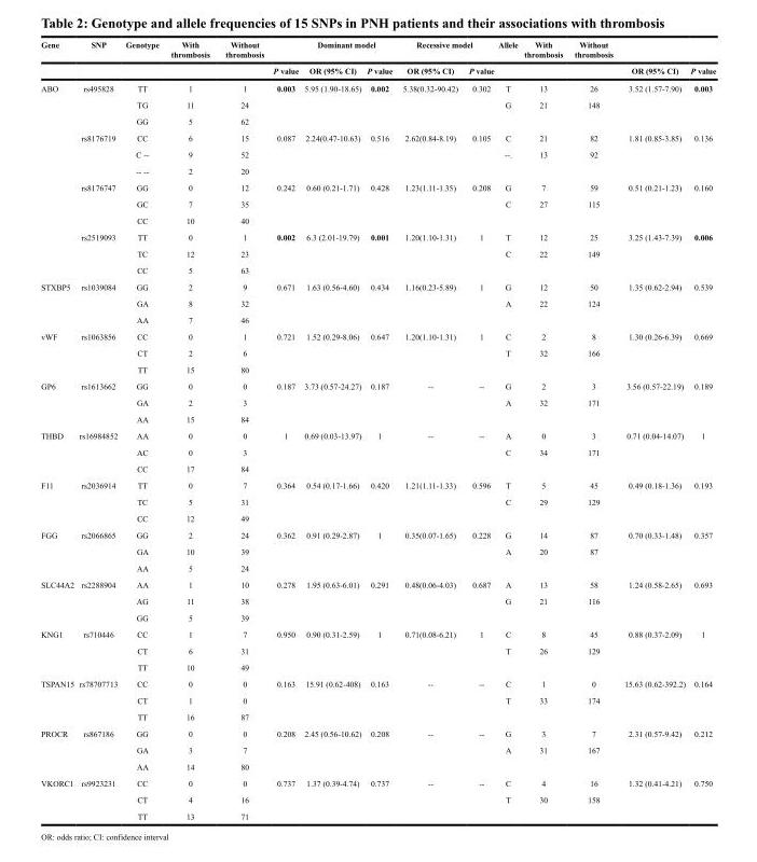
<table><thead><tr><td rowspan="2">Gene</td><td rowspan="2">SNP</td><td rowspan="2">Genotype</td><td rowspan="2">With thrombosis</td><td rowspan="2">Without thrombosis</td><td colspan="3">Dominant model</td><td colspan="2">Recessive model</td><td rowspan="2">Allele</td><td rowspan="2">With thrombosis</td><td rowspan="2">Without thrombosis</td><td rowspan="2">OR (95% CI)</td><td rowspan="2">P value</td></tr><tr><td>P value</td><td>OR (95% CI)</td><td>P value</td><td>OR (95% CI)</td><td>P value</td></tr></thead><tbody><tr><td rowspan="12">ABO</td><td>rs495828</td><td>TT</td><td>1</td><td>1</td><td>0.003</td><td>5.95 (1.90-18.65)</td><td>0.002</td><td>5.38(0.32-90.42)</td><td>0.302</td><td>T</td><td>13</td><td>26</td><td>3.52 (1.57-7.90)</td><td>0.003</td></tr><tr><td></td><td>TG</td><td>11</td><td>24</td><td></td><td></td><td></td><td></td><td></td><td>G</td><td>21</td><td>148</td><td></td><td></td></tr><tr><td></td><td>GG</td><td>5</td><td>62</td><td></td><td></td><td></td><td></td><td></td><td></td><td></td><td></td><td></td><td></td></tr><tr><td>rs8176719</td><td>CC</td><td>6</td><td>15</td><td>0.087</td><td>2.24(0.47-10.63)</td><td>0.516</td><td>2.62(0.84-8.19)</td><td>0.105</td><td>C</td><td>21</td><td>82</td><td>1.81 (0.85-3.85)</td><td>0.136</td></tr><tr><td></td><td>C --</td><td>9</td><td>52</td><td></td><td></td><td></td><td></td><td></td><td>--.</td><td>13</td><td>92</td><td></td><td></td></tr><tr><td></td><td>-- --</td><td>2</td><td>20</td><td></td><td></td><td></td><td></td><td></td><td></td><td></td><td></td><td></td><td></td></tr><tr><td>rs8176747</td><td>GG</td><td>0</td><td>12</td><td>0.242</td><td>0.60 (0.21-1.71)</td><td>0.428</td><td>1.23(1.11-1.35)</td><td>0.208</td><td>G</td><td>7</td><td>59</td><td>0.51 (0.21-1.23)</td><td>0.160</td></tr><tr><td></td><td>GC</td><td>7</td><td>35</td><td></td><td></td><td></td><td></td><td></td><td>C</td><td>27</td><td>115</td><td></td><td></td></tr><tr><td></td><td>CC</td><td>10</td><td>40</td><td></td><td></td><td></td><td></td><td></td><td></td><td></td><td></td><td></td><td></td></tr><tr><td>rs2519093</td><td>TT</td><td>0</td><td>1</td><td>0.002</td><td>6.3 (2.01-19.79)</td><td>0.001</td><td>1.20(1.10-1.31)</td><td>1</td><td>T</td><td>12</td><td>25</td><td>3.25 (1.43-7.39)</td><td>0.006</td></tr><tr><td></td><td>TC</td><td>12</td><td>23</td><td></td><td></td><td></td><td></td><td></td><td>C</td><td>22</td><td>149</td><td></td><td></td></tr><tr><td></td><td>CC</td><td>5</td><td>63</td><td></td><td></td><td></td><td></td><td></td><td></td><td></td><td></td><td></td><td></td></tr><tr><td rowspan="3">STXBP5</td><td>rs1039084</td><td>GG</td><td>2</td><td>9</td><td>0.671</td><td>1.63 (0.56-4.60)</td><td>0.434</td><td>1.16(0.23-5.89)</td><td>1</td><td>G</td><td>12</td><td>50</td><td>1.35 (0.62-2.94)</td><td>0.539</td></tr><tr><td></td><td>GA</td><td>8</td><td>32</td><td></td><td></td><td></td><td></td><td></td><td>A</td><td>22</td><td>124</td><td></td><td></td></tr><tr><td></td><td>AA</td><td>7</td><td>46</td><td></td><td></td><td></td><td></td><td></td><td></td><td></td><td></td><td></td><td></td></tr><tr><td rowspan="3">vWF</td><td>rs1063856</td><td>CC</td><td>0</td><td>1</td><td>0.721</td><td>1.52 (0.29-8.06)</td><td>0.647</td><td>1.20(1.10-1.31)</td><td>1</td><td>C</td><td>2</td><td>8</td><td>1.30 (0.26-6.39)</td><td>0.669</td></tr><tr><td></td><td>CT</td><td>2</td><td>6</td><td></td><td></td><td></td><td></td><td></td><td>T</td><td>32</td><td>166</td><td></td><td></td></tr><tr><td></td><td>TT</td><td>15</td><td>80</td><td></td><td></td><td></td><td></td><td></td><td></td><td></td><td></td><td></td><td></td></tr><tr><td rowspan="3">GP6</td><td>rs1613662</td><td>GG</td><td>0</td><td>0</td><td>0.187</td><td>3.73 (0.57-24.27)</td><td>0.187</td><td>--</td><td>--</td><td>G</td><td>2</td><td>3</td><td>3.56 (0.57-22.19)</td><td>0.189</td></tr><tr><td></td><td>GA</td><td>2</td><td>3</td><td></td><td></td><td></td><td></td><td></td><td>A</td><td>32</td><td>171</td><td></td><td></td></tr><tr><td></td><td>AA</td><td>15</td><td>84</td><td></td><td></td><td></td><td></td><td></td><td></td><td></td><td></td><td></td><td></td></tr><tr><td rowspan="3">THBD</td><td>rs16984852</td><td>AA</td><td>0</td><td>0</td><td>1</td><td>0.69 (0.03-13.97)</td><td>1</td><td>--</td><td>--</td><td>A</td><td>0</td><td>3</td><td>0.71 (0.04-14.07)</td><td>1</td></tr><tr><td></td><td>AC</td><td>0</td><td>3</td><td></td><td></td><td></td><td></td><td></td><td>C</td><td>34</td><td>171</td><td></td><td></td></tr><tr><td></td><td>CC</td><td>17</td><td>84</td><td></td><td></td><td></td><td></td><td></td><td></td><td></td><td></td><td></td><td></td></tr><tr><td rowspan="3">F11</td><td>rs2036914</td><td>TT</td><td>0</td><td>7</td><td>0.364</td><td>0.54 (0.17-1.66)</td><td>0.420</td><td>1.21(1.11-1.33)</td><td>0.596</td><td>T</td><td>5</td><td>45</td><td>0.49 (0.18-1.36)</td><td>0.193</td></tr><tr><td></td><td>TC</td><td>5</td><td>31</td><td></td><td></td><td></td><td></td><td></td><td>C</td><td>29</td><td>129</td><td></td><td></td></tr><tr><td></td><td>CC</td><td>12</td><td>49</td><td></td><td></td><td></td><td></td><td></td><td></td><td></td><td></td><td></td><td></td></tr><tr><td rowspan="3">FGG</td><td>rs2066865</td><td>GG</td><td>2</td><td>24</td><td>0.362</td><td>0.91 (0.29-2.87)</td><td>1</td><td>0.35(0.07-1.65)</td><td>0.228</td><td>G</td><td>14</td><td>87</td><td>0.70 (0.33-1.48)</td><td>0.357</td></tr><tr><td></td><td>GA</td><td>10</td><td>39</td><td></td><td></td><td></td><td></td><td></td><td>A</td><td>20</td><td>87</td><td></td><td></td></tr><tr><td></td><td>AA</td><td>5</td><td>24</td><td></td><td></td><td></td><td></td><td></td><td></td><td></td><td></td><td></td><td></td></tr><tr><td rowspan="3">SLC44A2</td><td>rs2288904</td><td>AA</td><td>1</td><td>10</td><td>0.278</td><td>1.95 (0.63-6.01)</td><td>0.291</td><td>0.48(0.06-4.03)</td><td>0.687</td><td>A</td><td>13</td><td>58</td><td>1.24 (0.58-2.65)</td><td>0.693</td></tr><tr><td></td><td>AG</td><td>11</td><td>38</td><td></td><td></td><td></td><td></td><td></td><td>G</td><td>21</td><td>116</td><td></td><td></td></tr><tr><td></td><td>GG</td><td>5</td><td>39</td><td></td><td></td><td></td><td></td><td></td><td></td><td></td><td></td><td></td><td></td></tr><tr><td rowspan="3">KNG1</td><td>rs710446</td><td>CC</td><td>1</td><td>7</td><td>0.950</td><td>0.90 (0.31-2.59)</td><td>1</td><td>0.71(0.08-6.21)</td><td>1</td><td>C</td><td>8</td><td>45</td><td>0.88 (0.37-2.09)</td><td>1</td></tr><tr><td></td><td>CT</td><td>6</td><td>31</td><td></td><td></td><td></td><td></td><td></td><td>T</td><td>26</td><td>129</td><td></td><td></td></tr><tr><td></td><td>TT</td><td>10</td><td>49</td><td></td><td></td><td></td><td></td><td></td><td></td><td></td><td></td><td></td><td></td></tr><tr><td rowspan="3">TSPAN15</td><td>rs78707713</td><td>CC</td><td>0</td><td>0</td><td>0.163</td><td>15.91 (0.62-408)</td><td>0.163</td><td>--</td><td>--</td><td>C</td><td>1</td><td>0</td><td>15.63 (0.62-392.2)</td><td>0.164</td></tr><tr><td></td><td>CT</td><td>1</td><td>0</td><td></td><td></td><td></td><td></td><td></td><td>T</td><td>33</td><td>174</td><td></td><td></td></tr><tr><td></td><td>TT</td><td>16</td><td>87</td><td></td><td></td><td></td><td></td><td></td><td></td><td></td><td></td><td></td><td></td></tr><tr><td rowspan="3">PROCR</td><td>rs867186</td><td>GG</td><td>0</td><td>0</td><td>0.208</td><td>2.45 (0.56-10.62)</td><td>0.208</td><td>--</td><td>--</td><td>G</td><td>3</td><td>7</td><td>2.31 (0.57-9.42)</td><td>0.212</td></tr><tr><td></td><td>GA</td><td>3</td><td>7</td><td></td><td></td><td></td><td></td><td></td><td>A</td><td>31</td><td>167</td><td></td><td></td></tr><tr><td></td><td>AA</td><td>14</td><td>80</td><td></td><td></td><td></td><td></td><td></td><td></td><td></td><td></td><td></td><td></td></tr><tr><td rowspan="3">VKORC1</td><td>rs9923231</td><td>CC</td><td>0</td><td>0</td><td>0.737</td><td>1.37 (0.39-4.74)</td><td>0.737</td><td>--</td><td>--</td><td>C</td><td>4</td><td>16</td><td>1.32 (0.41-4.21)</td><td>0.750</td></tr><tr><td></td><td>CT</td><td>4</td><td>16</td><td></td><td></td><td></td><td></td><td></td><td>T</td><td>30</td><td>158</td><td></td><td></td></tr><tr><td></td><td>TT</td><td>13</td><td>71</td><td></td><td></td><td></td><td></td><td></td><td></td><td></td><td></td><td></td><td></td></tr></tbody></table>